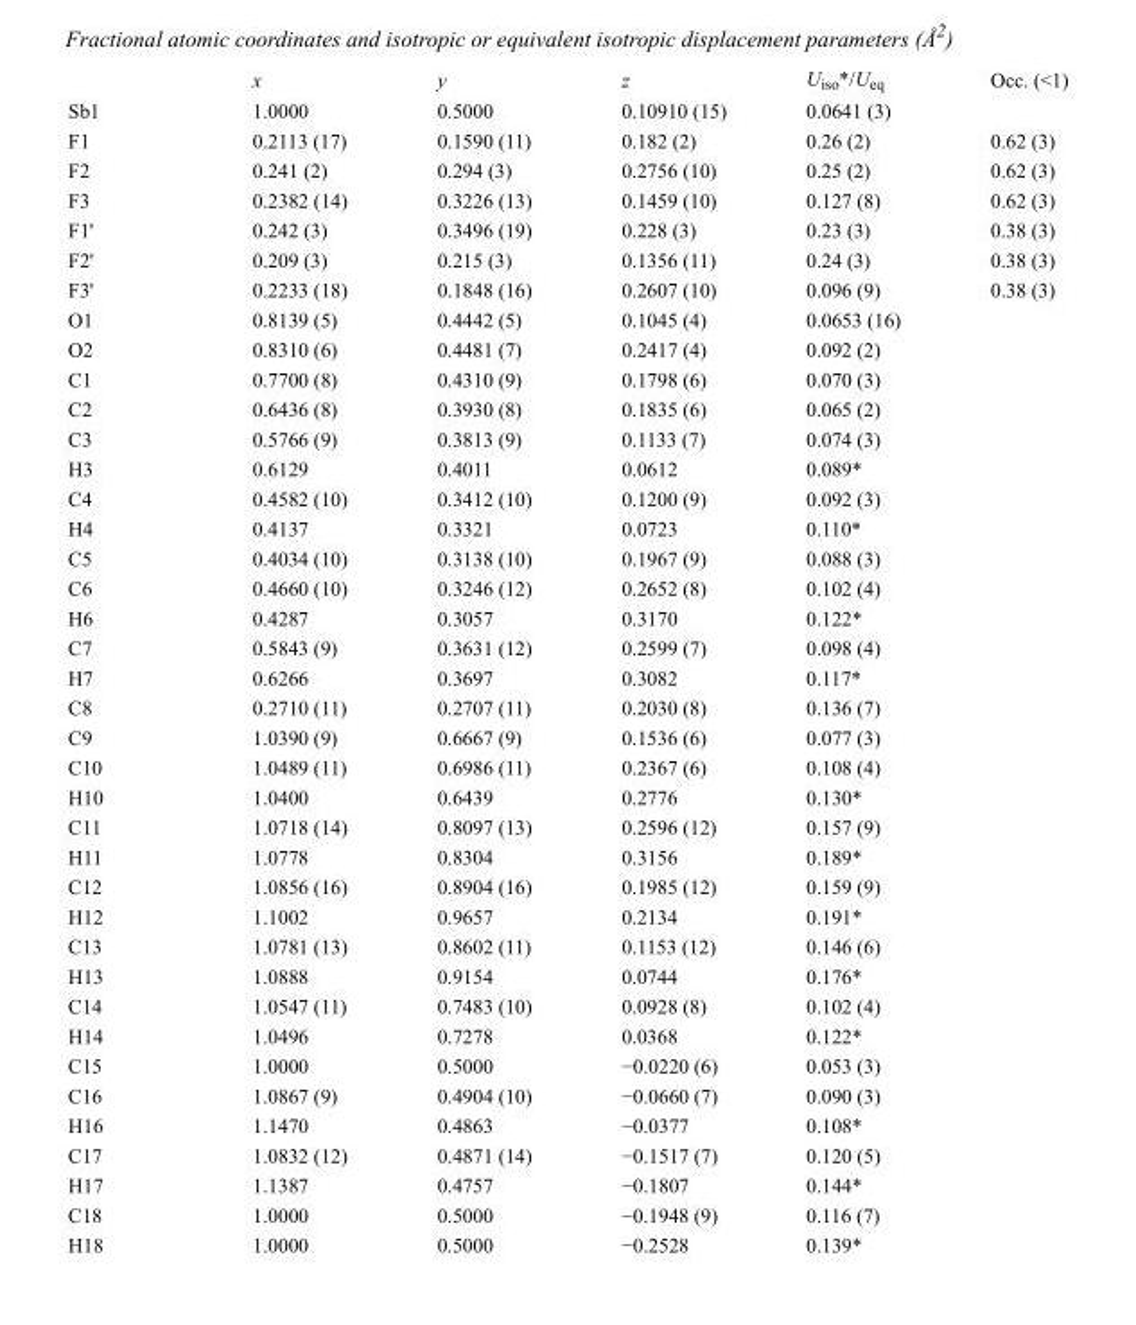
<table><thead><tr><td></td><td>x</td><td>y</td><td>z</td><td>U<sub>iso</sub>*/U<sub>eq</sub></td><td>Occ. (&lt;1)</td></tr></thead><tbody><tr><td>Sb1</td><td>1.0000</td><td>0.5000</td><td>0.10910 (15)</td><td>0.0641 (3)</td><td></td></tr><tr><td>F1</td><td>0.2113 (17)</td><td>0.1590 (11)</td><td>0.182 (2)</td><td>0.26 (2)</td><td>0.62 (3)</td></tr><tr><td>F2</td><td>0.241 (2)</td><td>0.294 (3)</td><td>0.2756 (10)</td><td>0.25 (2)</td><td>0.62 (3)</td></tr><tr><td>F3</td><td>0.2382 (14)</td><td>0.3226 (13)</td><td>0.1459 (10)</td><td>0.127 (8)</td><td>0.62 (3)</td></tr><tr><td>F1&#x27;</td><td>0.242 (3)</td><td>0.3496 (19)</td><td>0.228 (3)</td><td>0.23 (3)</td><td>0.38 (3)</td></tr><tr><td>F2&#x27;</td><td>0.209 (3)</td><td>0.215 (3)</td><td>0.1356 (11)</td><td>0.24 (3)</td><td>0.38 (3)</td></tr><tr><td>F3&#x27;</td><td>0.2233 (18)</td><td>0.1848 (16)</td><td>0.2607 (10)</td><td>0.096 (9)</td><td>0.38 (3)</td></tr><tr><td>O1</td><td>0.8139 (5)</td><td>0.4442 (5)</td><td>0.1045 (4)</td><td>0.0653 (16)</td><td></td></tr><tr><td>O2</td><td>0.8310 (6)</td><td>0.4481 (7)</td><td>0.2417 (4)</td><td>0.092 (2)</td><td></td></tr><tr><td>C1</td><td>0.7700 (8)</td><td>0.4310 (9)</td><td>0.1798 (6)</td><td>0.070 (3)</td><td></td></tr><tr><td>C2</td><td>0.6436 (8)</td><td>0.3930 (8)</td><td>0.1835 (6)</td><td>0.065 (2)</td><td></td></tr><tr><td>C3</td><td>0.5766 (9)</td><td>0.3813 (9)</td><td>0.1133 (7)</td><td>0.074 (3)</td><td></td></tr><tr><td>H3</td><td>0.6129</td><td>0.4011</td><td>0.0612</td><td>0.089*</td><td></td></tr><tr><td>C4</td><td>0.4582 (10)</td><td>0.3412 (10)</td><td>0.1200 (9)</td><td>0.092 (3)</td><td></td></tr><tr><td>H4</td><td>0.4137</td><td>0.3321</td><td>0.0723</td><td>0.110*</td><td></td></tr><tr><td>C5</td><td>0.4034 (10)</td><td>0.3138 (10)</td><td>0.1967 (9)</td><td>0.088 (3)</td><td></td></tr><tr><td>C6</td><td>0.4660 (10)</td><td>0.3246 (12)</td><td>0.2652 (8)</td><td>0.102 (4)</td><td></td></tr><tr><td>H6</td><td>0.4287</td><td>0.3057</td><td>0.3170</td><td>0.122*</td><td></td></tr><tr><td>C7</td><td>0.5843 (9)</td><td>0.3631 (12)</td><td>0.2599 (7)</td><td>0.098 (4)</td><td></td></tr><tr><td>H7</td><td>0.6266</td><td>0.3697</td><td>0.3082</td><td>0.117*</td><td></td></tr><tr><td>C8</td><td>0.2710 (11)</td><td>0.2707 (11)</td><td>0.2030 (8)</td><td>0.136 (7)</td><td></td></tr><tr><td>C9</td><td>1.0390 (9)</td><td>0.6667 (9)</td><td>0.1536 (6)</td><td>0.077 (3)</td><td></td></tr><tr><td>C10</td><td>1.0489 (11)</td><td>0.6986 (11)</td><td>0.2367 (6)</td><td>0.108 (4)</td><td></td></tr><tr><td>H10</td><td>1.0400</td><td>0.6439</td><td>0.2776</td><td>0.130*</td><td></td></tr><tr><td>C11</td><td>1.0718 (14)</td><td>0.8097 (13)</td><td>0.2596 (12)</td><td>0.157 (9)</td><td></td></tr><tr><td>H11</td><td>1.0778</td><td>0.8304</td><td>0.3156</td><td>0.189*</td><td></td></tr><tr><td>C12</td><td>1.0856 (16)</td><td>0.8904 (16)</td><td>0.1985 (12)</td><td>0.159 (9)</td><td></td></tr><tr><td>H12</td><td>1.1002</td><td>0.9657</td><td>0.2134</td><td>0.191*</td><td></td></tr><tr><td>C13</td><td>1.0781 (13)</td><td>0.8602 (11)</td><td>0.1153 (12)</td><td>0.146 (6)</td><td></td></tr><tr><td>H13</td><td>1.0888</td><td>0.9154</td><td>0.0744</td><td>0.176*</td><td></td></tr><tr><td>C14</td><td>1.0547 (11)</td><td>0.7483 (10)</td><td>0.0928 (8)</td><td>0.102 (4)</td><td></td></tr><tr><td>H14</td><td>1.0496</td><td>0.7278</td><td>0.0368</td><td>0.122*</td><td></td></tr><tr><td>C15</td><td>1.0000</td><td>0.5000</td><td>−0.0220 (6)</td><td>0.053 (3)</td><td></td></tr><tr><td>C16</td><td>1.0867 (9)</td><td>0.4904 (10)</td><td>−0.0660 (7)</td><td>0.090 (3)</td><td></td></tr><tr><td>H16</td><td>1.1470</td><td>0.4863</td><td>−0.0377</td><td>0.108*</td><td></td></tr><tr><td>C17</td><td>1.0832 (12)</td><td>0.4871 (14)</td><td>−0.1517 (7)</td><td>0.120 (5)</td><td></td></tr><tr><td>H17</td><td>1.1387</td><td>0.4757</td><td>−0.1807</td><td>0.144*</td><td></td></tr><tr><td>C18</td><td>1.0000</td><td>0.5000</td><td>−0.1948 (9)</td><td>0.116 (7)</td><td></td></tr><tr><td>H18</td><td>1.0000</td><td>0.5000</td><td>−0.2528</td><td>0.139*</td><td></td></tr></tbody></table>